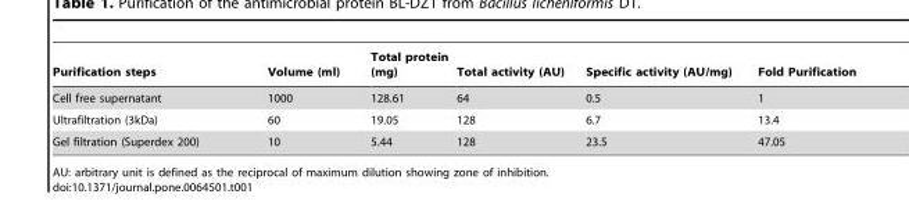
<table><thead><tr><td>Purification steps</td><td>Volume (ml)</td><td>Total protein (mg)</td><td>Total activity (AU)</td><td>Specific activity (AU/mg)</td><td>Fold Purification</td></tr></thead><tbody><tr><td>Cell free supernatant</td><td>1000</td><td>128.61</td><td>64</td><td>0.5</td><td>1</td></tr><tr><td>Ultrafiltration (3kDa)</td><td>60</td><td>19.05</td><td>128</td><td>6.7</td><td>13.4</td></tr><tr><td>Gel filtration (Superdex 200)</td><td>10</td><td>5.44</td><td>128</td><td>23.5</td><td>47.05</td></tr></tbody></table>